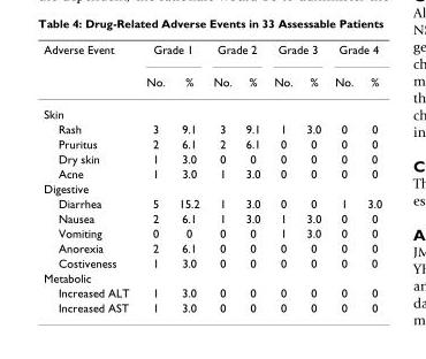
<table><thead><tr><td rowspan="2">Adverse Event</td><td colspan="2">Grade 1</td><td colspan="2">Grade 2</td><td colspan="2">Grade 3</td><td colspan="2">Grade 4</td></tr><tr><td>No.</td><td>%</td><td>No.</td><td>%</td><td>No.</td><td>%</td><td>No.</td><td>%</td></tr></thead><tbody><tr><td colspan="9">Skin</td></tr><tr><td>Rash</td><td>3</td><td>9.1</td><td>3</td><td>9.1</td><td>1</td><td>3.0</td><td>0</td><td>0</td></tr><tr><td>Pruritus</td><td>2</td><td>6.1</td><td>2</td><td>6.1</td><td>0</td><td>0</td><td>0</td><td>0</td></tr><tr><td>Dry skin</td><td>1</td><td>3.0</td><td>0</td><td>0</td><td>0</td><td>0</td><td>0</td><td>0</td></tr><tr><td>Acne</td><td>1</td><td>3.0</td><td>1</td><td>3.0</td><td>0</td><td>0</td><td>0</td><td>0</td></tr><tr><td colspan="9">Digestive</td></tr><tr><td>Diarrhea</td><td>5</td><td>15.2</td><td>1</td><td>3.0</td><td>0</td><td>0</td><td>1</td><td>3.0</td></tr><tr><td>Nausea</td><td>2</td><td>6.1</td><td>1</td><td>3.0</td><td>1</td><td>3.0</td><td>0</td><td>0</td></tr><tr><td>Vomiting</td><td>0</td><td>0</td><td>0</td><td>0</td><td>1</td><td>3.0</td><td>0</td><td>0</td></tr><tr><td>Anorexia</td><td>2</td><td>6.1</td><td>0</td><td>0</td><td>0</td><td>0</td><td>0</td><td>0</td></tr><tr><td>Costiveness</td><td>1</td><td>3.0</td><td>0</td><td>0</td><td>0</td><td>0</td><td>0</td><td>0</td></tr><tr><td colspan="9">Metabolic</td></tr><tr><td>Increased ALT</td><td>1</td><td>3.0</td><td>0</td><td>0</td><td>0</td><td>0</td><td>0</td><td>0</td></tr><tr><td>Increased AST</td><td>1</td><td>3.0</td><td>0</td><td>0</td><td>0</td><td>0</td><td>0</td><td>0</td></tr></tbody></table>